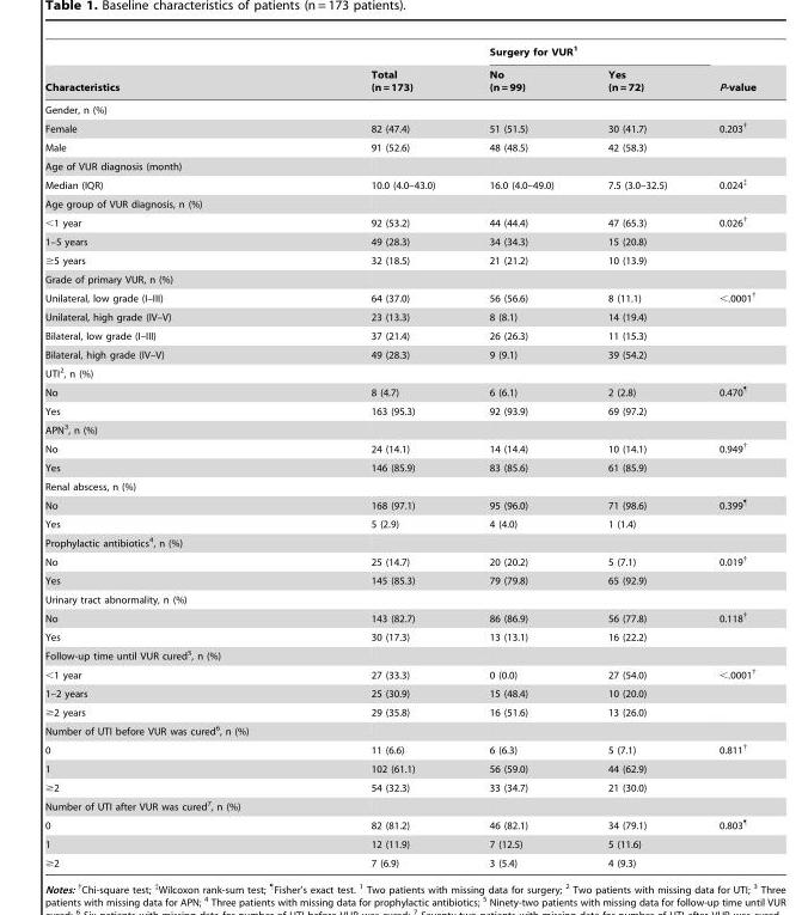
<table><thead><tr><td rowspan="2">Characteristics</td><td rowspan="2">Total (n = 173)</td><td colspan="2">Surgery for VUR<sup>1</sup></td><td rowspan="2">P-value</td></tr><tr><td>No (n = 99)</td><td>Yes (n = 72)</td></tr></thead><tbody><tr><td colspan="5">Gender, n (%)</td></tr><tr><td>Female</td><td>82 (47.4)</td><td>51 (51.5)</td><td>30 (41.7)</td><td>0.203<sup>†</sup></td></tr><tr><td>Male</td><td>91 (52.6)</td><td>48 (48.5)</td><td>42 (58.3)</td><td></td></tr><tr><td colspan="5">Age of VUR diagnosis (month)</td></tr><tr><td>Median (IQR)</td><td>10.0 (4.0–43.0)</td><td>16.0 (4.0–49.0)</td><td>7.5 (3.0–32.5)</td><td>0.024<sup>‡</sup></td></tr><tr><td colspan="5">Age group of VUR diagnosis, n (%)</td></tr><tr><td>&lt;1 year</td><td>92 (53.2)</td><td>44 (44.4)</td><td>47 (65.3)</td><td>0.026<sup>†</sup></td></tr><tr><td>1–5 years</td><td>49 (28.3)</td><td>34 (34.3)</td><td>15 (20.8)</td><td></td></tr><tr><td>≥5 years</td><td>32 (18.5)</td><td>21 (21.2)</td><td>10 (13.9)</td><td></td></tr><tr><td colspan="5">Grade of primary VUR, n (%)</td></tr><tr><td>Unilateral, low grade (I–III)</td><td>64 (37.0)</td><td>56 (56.6)</td><td>8 (11.1)</td><td>&lt;.0001<sup>†</sup></td></tr><tr><td>Unilateral, high grade (IV–V)</td><td>23 (13.3)</td><td>8 (8.1)</td><td>14 (19.4)</td><td></td></tr><tr><td>Bilateral, low grade (I–III)</td><td>37 (21.4)</td><td>26 (26.3)</td><td>11 (15.3)</td><td></td></tr><tr><td>Bilateral, high grade (IV–V)</td><td>49 (28.3)</td><td>9 (9.1)</td><td>39 (54.2)</td><td></td></tr><tr><td colspan="5">UTI<sup>2</sup>, n (%)</td></tr><tr><td>No</td><td>8 (4.7)</td><td>6 (6.1)</td><td>2 (2.8)</td><td>0.470<sup>¶</sup></td></tr><tr><td>Yes</td><td>163 (95.3)</td><td>92 (93.9)</td><td>69 (97.2)</td><td></td></tr><tr><td colspan="5">APN<sup>3</sup>, n (%)</td></tr><tr><td>No</td><td>24 (14.1)</td><td>14 (14.4)</td><td>10 (14.1)</td><td>0.949<sup>†</sup></td></tr><tr><td>Yes</td><td>146 (85.9)</td><td>83 (85.6)</td><td>61 (85.9)</td><td></td></tr><tr><td colspan="5">Renal abscess, n (%)</td></tr><tr><td>No</td><td>168 (97.1)</td><td>95 (96.0)</td><td>71 (98.6)</td><td>0.399<sup>¶</sup></td></tr><tr><td>Yes</td><td>5 (2.9)</td><td>4 (4.0)</td><td>1 (1.4)</td><td></td></tr><tr><td colspan="5">Prophylactic antibiotics<sup>4</sup>, n (%)</td></tr><tr><td>No</td><td>25 (14.7)</td><td>20 (20.2)</td><td>5 (7.1)</td><td>0.019<sup>†</sup></td></tr><tr><td>Yes</td><td>145 (85.3)</td><td>79 (79.8)</td><td>65 (92.9)</td><td></td></tr><tr><td colspan="5">Urinary tract abnormality, n (%)</td></tr><tr><td>No</td><td>143 (82.7)</td><td>86 (86.9)</td><td>56 (77.8)</td><td>0.118<sup>†</sup></td></tr><tr><td>Yes</td><td>30 (17.3)</td><td>13 (13.1)</td><td>16 (22.2)</td><td></td></tr><tr><td colspan="5">Follow-up time until VUR cured<sup>5</sup>, n (%)</td></tr><tr><td>&lt;1 year</td><td>27 (33.3)</td><td>0 (0.0)</td><td>27 (54.0)</td><td>&lt;.0001<sup>†</sup></td></tr><tr><td>1–2 years</td><td>25 (30.9)</td><td>15 (48.4)</td><td>10 (20.0)</td><td></td></tr><tr><td>≥2 years</td><td>29 (35.8)</td><td>16 (51.6)</td><td>13 (26.0)</td><td></td></tr><tr><td colspan="5">Number of UTI before VUR was cured<sup>6</sup>, n (%)</td></tr><tr><td>0</td><td>11 (6.6)</td><td>6 (6.3)</td><td>5 (7.1)</td><td>0.811<sup>†</sup></td></tr><tr><td>1</td><td>102 (61.1)</td><td>56 (59.0)</td><td>44 (62.9)</td><td></td></tr><tr><td>≥2</td><td>54 (32.3)</td><td>33 (34.7)</td><td>21 (30.0)</td><td></td></tr><tr><td colspan="5">Number of UTI after VUR was cured<sup>7</sup>, n (%)</td></tr><tr><td>0</td><td>82 (81.2)</td><td>46 (82.1)</td><td>34 (79.1)</td><td>0.803<sup>¶</sup></td></tr><tr><td>1</td><td>12 (11.9)</td><td>7 (12.5)</td><td>5 (11.6)</td><td></td></tr><tr><td>≥2</td><td>7 (6.9)</td><td>3 (5.4)</td><td>4 (9.3)</td><td></td></tr></tbody></table>